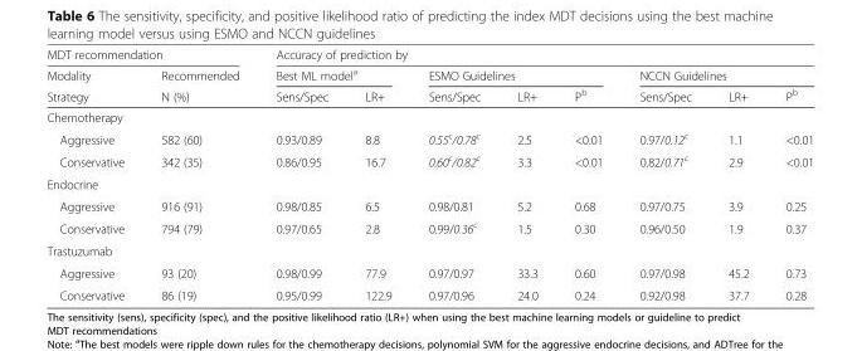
<table><thead><tr><td colspan="2">MDT recommendation</td><td colspan="8">Accuracy of prediction by</td></tr><tr><td rowspan="2">Modality Strategy</td><td rowspan="2">Recommended N (%)</td><td colspan="2">Best ML model<sup>a</sup></td><td colspan="3">ESMO Guidelines</td><td colspan="3">NCCN Guidelines</td></tr><tr><td>Sens/Spec</td><td>LR+</td><td>Sens/Spec</td><td>LR+</td><td>P<sup>b</sup></td><td>Sens/Spec</td><td>LR+</td><td>P<sup>b</sup></td></tr></thead><tbody><tr><td colspan="10">Chemotherapy</td></tr><tr><td>Aggressive</td><td>582 (60)</td><td>0.93/0.89</td><td>8.8</td><td>0.55<sup>c</sup>/0.78<sup>c</sup></td><td>2.5</td><td>&lt;0.01</td><td>0.97/0.12<sup>c</sup></td><td>1.1</td><td>&lt;0.01</td></tr><tr><td>Conservative</td><td>342 (35)</td><td>0.86/0.95</td><td>16.7</td><td>0.60<sup>c</sup>/0.82<sup>c</sup></td><td>3.3</td><td>&lt;0.01</td><td>0.82/0.71<sup>c</sup></td><td>2.9</td><td>&lt;0.01</td></tr><tr><td colspan="10">Endocrine</td></tr><tr><td>Aggressive</td><td>916 (91)</td><td>0.98/0.85</td><td>6.5</td><td>0.98/0.81</td><td>5.2</td><td>0.68</td><td>0.97/0.75</td><td>3.9</td><td>0.25</td></tr><tr><td>Conservative</td><td>794 (79)</td><td>0.97/0.65</td><td>2.8</td><td>0.99/0.36<sup>c</sup></td><td>1.5</td><td>0.30</td><td>0.96/0.50</td><td>1.9</td><td>0.37</td></tr><tr><td colspan="10">Trastuzumab</td></tr><tr><td>Aggressive</td><td>93 (20)</td><td>0.98/0.99</td><td>77.9</td><td>0.97/0.97</td><td>33.3</td><td>0.60</td><td>0.97/0.98</td><td>45.2</td><td>0.73</td></tr><tr><td>Conservative</td><td>86 (19)</td><td>0.95/0.99</td><td>122.9</td><td>0.97/0.96</td><td>24.0</td><td>0.24</td><td>0.92/0.98</td><td>37.7</td><td>0.28</td></tr></tbody></table>